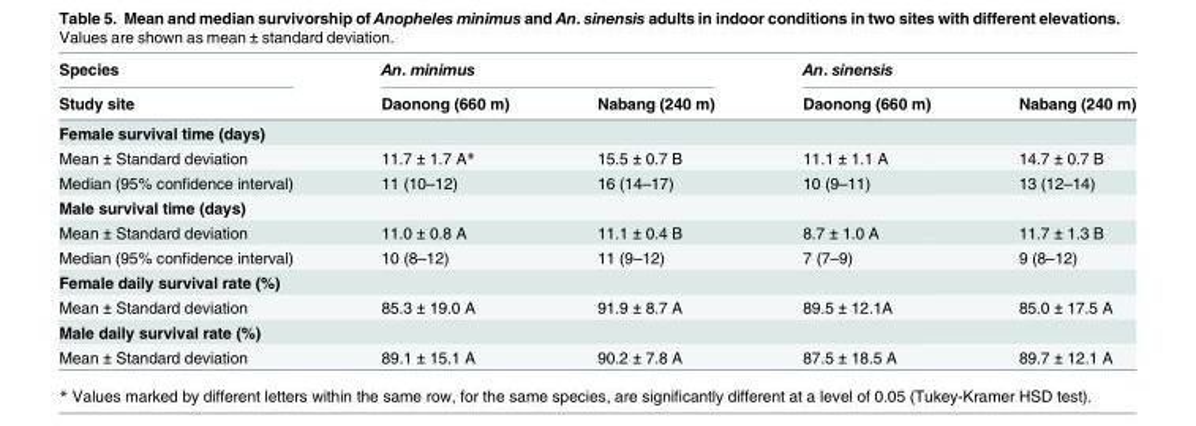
<table><thead><tr><td rowspan="2">Species Study site</td><td colspan="2">An. minimus</td><td colspan="2">An. sinensis</td></tr><tr><td>Daonong (660 m)</td><td>Nabang (240 m)</td><td>Daonong (660 m)</td><td>Nabang (240 m)</td></tr></thead><tbody><tr><td colspan="5">Female survival time (days)</td></tr><tr><td>Mean ± Standard deviation</td><td>11.7 ± 1.7 A*</td><td>15.5 ± 0.7 B</td><td>11.1 ± 1.1 A</td><td>14.7 ± 0.7 B</td></tr><tr><td>Median (95% confidence interval)</td><td>11 (10–12)</td><td>16 (14–17)</td><td>10 (9–11)</td><td>13 (12–14)</td></tr><tr><td colspan="5">Male survival time (days)</td></tr><tr><td>Mean ± Standard deviation</td><td>11.0 ± 0.8 A</td><td>11.1 ± 0.4 B</td><td>8.7 ± 1.0 A</td><td>11.7 ± 1.3 B</td></tr><tr><td>Median (95% confidence interval)</td><td>10 (8–12)</td><td>11 (9–12)</td><td>7 (7–9)</td><td>9 (8–12)</td></tr><tr><td colspan="5">Female daily survival rate (%)</td></tr><tr><td>Mean ± Standard deviation</td><td>85.3 ± 19.0 A</td><td>91.9 ± 8.7 A</td><td>89.5 ± 12.1A</td><td>85.0 ± 17.5 A</td></tr><tr><td colspan="5">Male daily survival rate (%)</td></tr><tr><td>Mean ± Standard deviation</td><td>89.1 ± 15.1 A</td><td>90.2 ± 7.8 A</td><td>87.5 ± 18.5 A</td><td>89.7 ± 12.1 A</td></tr></tbody></table>